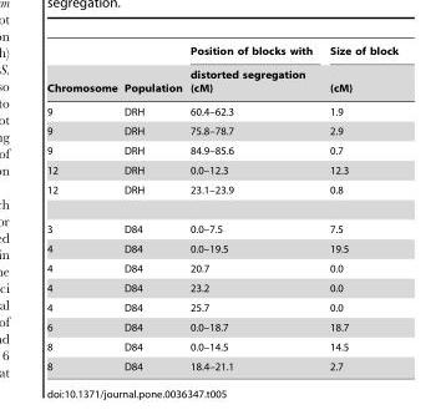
<table><thead><tr><td rowspan="2">Chromosome</td><td rowspan="2">Population</td><td rowspan="2">Position of blocks with distorted segregation (cM)</td><td rowspan="2">Size of block (cM)</td></tr><tr></tr></thead><tbody><tr><td>9</td><td>DRH</td><td>60.4–62.3</td><td>1.9</td></tr><tr><td>9</td><td>DRH</td><td>75.8–78.7</td><td>2.9</td></tr><tr><td>9</td><td>DRH</td><td>84.9–85.6</td><td>0.7</td></tr><tr><td>12</td><td>DRH</td><td>0.0–12.3</td><td>12.3</td></tr><tr><td>12</td><td>DRH</td><td>23.1–23.9</td><td>0.8</td></tr><tr><td>3</td><td>D84</td><td>0.0–7.5</td><td>7.5</td></tr><tr><td>4</td><td>D84</td><td>0.0–19.5</td><td>19.5</td></tr><tr><td>4</td><td>D84</td><td>20.7</td><td>0.0</td></tr><tr><td>4</td><td>D84</td><td>23.2</td><td>0.0</td></tr><tr><td>4</td><td>D84</td><td>25.7</td><td>0.0</td></tr><tr><td>6</td><td>D84</td><td>0.0–18.7</td><td>18.7</td></tr><tr><td>8</td><td>D84</td><td>0.0–14.5</td><td>14.5</td></tr><tr><td>8</td><td>D84</td><td>18.4–21.1</td><td>2.7</td></tr></tbody></table>